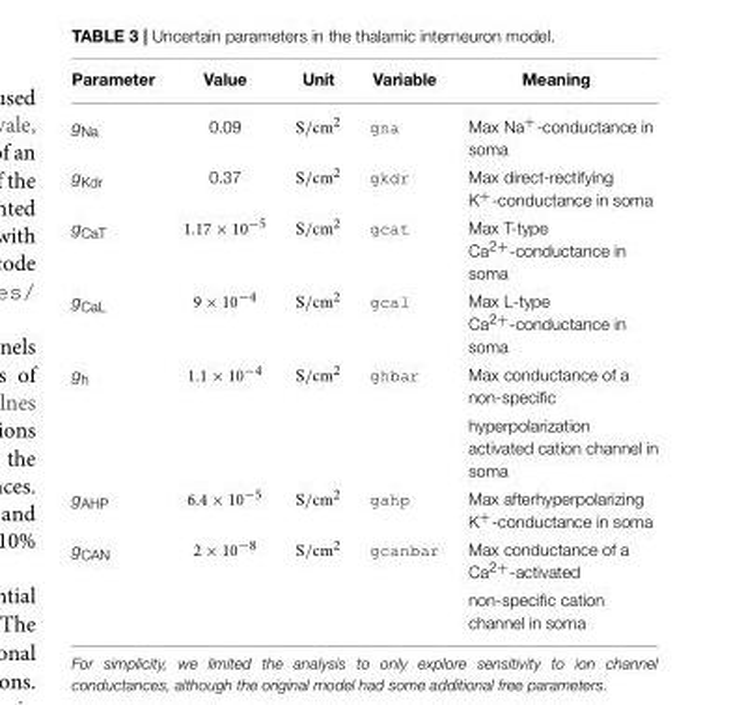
<table><thead><tr><td>Parameter</td><td>Value</td><td>Unit</td><td>Variable</td><td>Meaning</td></tr></thead><tbody><tr><td>g<sub>Na</sub></td><td>0.09</td><td>S/cm<sup>2</sup></td><td>gna</td><td>Max Na<sup>+</sup>-conductance in soma</td></tr><tr><td>g<sub>Kdr</sub></td><td>0.37</td><td>S/cm<sup>2</sup></td><td>gkdr</td><td>Max direct-rectifying K<sup>+</sup>-conductance in soma</td></tr><tr><td>g<sub>CaT</sub></td><td>1.17 × 10<sup>−5</sup></td><td>S/cm<sup>2</sup></td><td>gcat</td><td>Max T-type Ca<sup>2+</sup>-conductance in soma</td></tr><tr><td>g<sub>CaL</sub></td><td>9 × 10<sup>−4</sup></td><td>S/cm<sup>2</sup></td><td>gcal</td><td>Max L-type Ca<sup>2+</sup>-conductance in soma</td></tr><tr><td rowspan="2">g<sub>h</sub></td><td>1.1 × 10<sup>−4</sup></td><td>S/cm<sup>2</sup></td><td>ghbar</td><td>Max conductance of a non-specific</td></tr><tr><td></td><td></td><td></td><td>hyperpolarization activated cation channel in soma</td></tr><tr><td>g<sub>AHP</sub></td><td>6.4 × 10<sup>−5</sup></td><td>S/cm<sup>2</sup></td><td>gahp</td><td>Max afterhyperpolarizing K<sup>+</sup>-conductance in soma</td></tr><tr><td rowspan="2">g<sub>CAN</sub></td><td>2 × 10<sup>−8</sup></td><td>S/cm<sup>2</sup></td><td>gcanbar</td><td>Max conductance of a Ca<sup>2+</sup>-activated</td></tr><tr><td></td><td></td><td></td><td>non-specific cation channel in soma</td></tr></tbody></table>